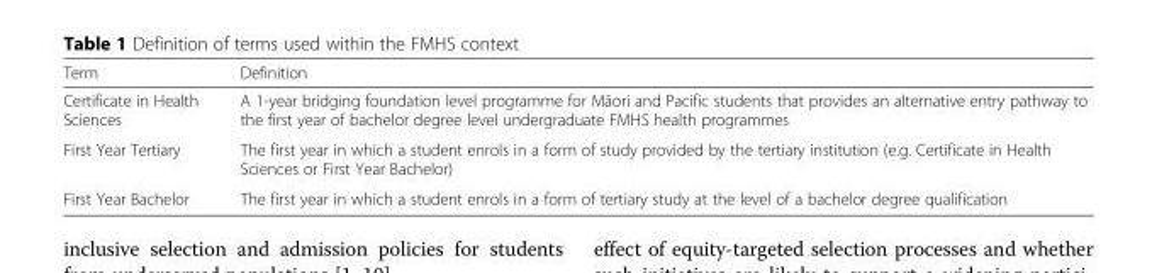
<table><thead><tr><td>Term</td><td>Definition</td></tr></thead><tbody><tr><td>Certificate in Health Sciences</td><td>A 1-year bridging foundation level programme for Māori and Pacific students that provides an alternative entry pathway to the first year of bachelor degree level undergraduate FMHS health programmes</td></tr><tr><td>First Year Tertiary</td><td>The first year in which a student enrols in a form of study provided by the tertiary institution (e.g. Certificate in Health Sciences or First Year Bachelor)</td></tr><tr><td>First Year Bachelor</td><td>The first year in which a student enrols in a form of tertiary study at the level of a bachelor degree qualification</td></tr></tbody></table>